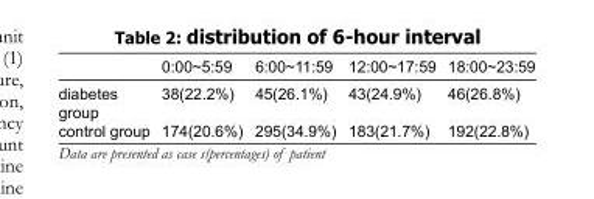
<table><thead><tr><td></td><td>0:00~5:59</td><td>6:00~11:59</td><td>12:00~17:59</td><td>18:00~23:59</td></tr></thead><tbody><tr><td>diabetes group</td><td>38(22.2%)</td><td>45(26.1%)</td><td>43(24.9%)</td><td>46(26.8%)</td></tr><tr><td>control group</td><td>174(20.6%)</td><td>295(34.9%)</td><td>183(21.7%)</td><td>192(22.8%)</td></tr></tbody></table>